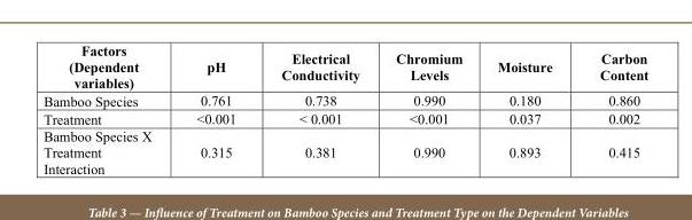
<table><thead><tr><td>Factors (Dependent variables)</td><td>pH</td><td>Electrical Conductivity</td><td>Chromium Levels</td><td>Moisture</td><td>Carbon Content</td></tr></thead><tbody><tr><td>Bamboo Species</td><td>0.761</td><td>0.738</td><td>0.990</td><td>0.180</td><td>0.860</td></tr><tr><td>Treatment</td><td>&lt;0.001</td><td>&lt; 0.001</td><td>&lt;0.001</td><td>0.037</td><td>0.002</td></tr><tr><td>Bamboo Species X Treatment Interaction</td><td>0.315</td><td>0.381</td><td>0.990</td><td>0.893</td><td>0.415</td></tr></tbody></table>